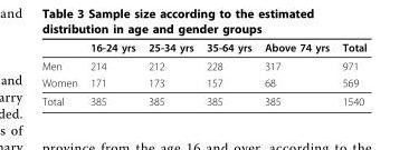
<table><thead><tr><td></td><td>16-24 yrs</td><td>25-34 yrs</td><td>35-64 yrs</td><td>Above 74 yrs</td><td>Total</td></tr></thead><tbody><tr><td>Men</td><td>214</td><td>212</td><td>228</td><td>317</td><td>971</td></tr><tr><td>Women</td><td>171</td><td>173</td><td>157</td><td>68</td><td>569</td></tr><tr><td>Total</td><td>385</td><td>385</td><td>385</td><td>385</td><td>1540</td></tr></tbody></table>